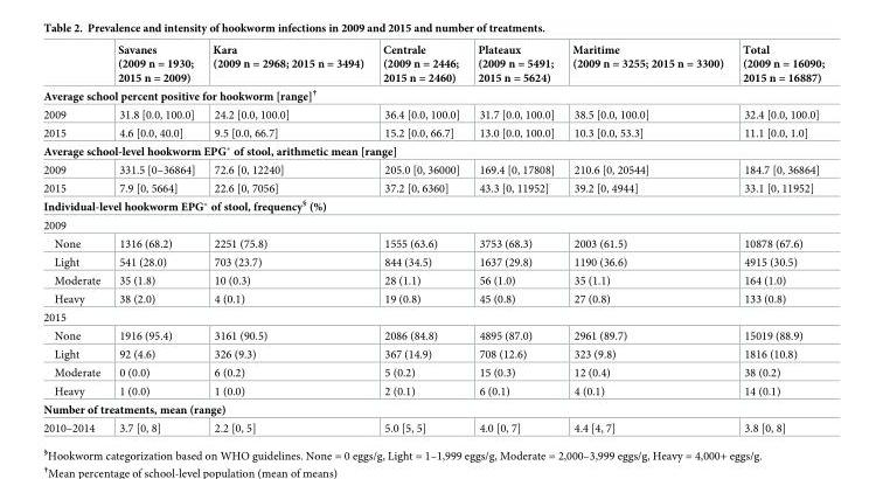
<table><thead><tr><td></td><td>Savanes (2009 n = 1930; 2015 n = 2009)</td><td>Kara (2009 n = 2968; 2015 n = 3494)</td><td>Centrale (2009 n = 2446; 2015 n = 2460)</td><td>Plateaux (2009 n = 5491; 2015 n = 5624)</td><td>Maritime (2009 n = 3255; 2015 n = 3300)</td><td>Total (2009 n = 16090; 2015 n = 16887)</td></tr></thead><tbody><tr><td colspan="7">Average school percent positive for hookworm [range]<sup>†</sup></td></tr><tr><td>2009</td><td>31.8 [0.0, 100.0]</td><td>24.2 [0.0, 100.0]</td><td>36.4 [0.0, 100.0]</td><td>31.7 [0.0, 100.0]</td><td>38.5 [0.0, 100.0]</td><td>32.4 [0.0, 100.0]</td></tr><tr><td>2015</td><td>4.6 [0.0, 40.0]</td><td>9.5 [0.0, 66.7]</td><td>15.2 [0.0, 66.7]</td><td>13.0 [0.0, 100.0]</td><td>10.3 [0.0, 53.3]</td><td>11.1 [0.0, 1.0]</td></tr><tr><td colspan="7">Average school-level hookworm EPG* of stool, arithmetic mean [range]</td></tr><tr><td>2009</td><td>331.5 [0–36864]</td><td>72.6 [0, 12240]</td><td>205.0 [0, 36000]</td><td>169.4 [0, 17808]</td><td>210.6 [0, 20544]</td><td>184.7 [0, 36864]</td></tr><tr><td>2015</td><td>7.9 [0, 5664]</td><td>22.6 [0, 7056]</td><td>37.2 [0, 6360]</td><td>43.3 [0, 11952]</td><td>39.2 [0, 4944]</td><td>33.1 [0, 11952]</td></tr><tr><td colspan="7">Individual-level hookworm EPG* of stool, frequency<sup>§</sup> (%)</td></tr><tr><td colspan="7">2009</td></tr><tr><td>None</td><td>1316 (68.2)</td><td>2251 (75.8)</td><td>1555 (63.6)</td><td>3753 (68.3)</td><td>2003 (61.5)</td><td>10878 (67.6)</td></tr><tr><td>Light</td><td>541 (28.0)</td><td>703 (23.7)</td><td>844 (34.5)</td><td>1637 (29.8)</td><td>1190 (36.6)</td><td>4915 (30.5)</td></tr><tr><td>Moderate</td><td>35 (1.8)</td><td>10 (0.3)</td><td>28 (1.1)</td><td>56 (1.0)</td><td>35 (1.1)</td><td>164 (1.0)</td></tr><tr><td>Heavy</td><td>38 (2.0)</td><td>4 (0.1)</td><td>19 (0.8)</td><td>45 (0.8)</td><td>27 (0.8)</td><td>133 (0.8)</td></tr><tr><td colspan="7">2015</td></tr><tr><td>None</td><td>1916 (95.4)</td><td>3161 (90.5)</td><td>2086 (84.8)</td><td>4895 (87.0)</td><td>2961 (89.7)</td><td>15019 (88.9)</td></tr><tr><td>Light</td><td>92 (4.6)</td><td>326 (9.3)</td><td>367 (14.9)</td><td>708 (12.6)</td><td>323 (9.8)</td><td>1816 (10.8)</td></tr><tr><td>Moderate</td><td>0 (0.0)</td><td>6 (0.2)</td><td>5 (0.2)</td><td>15 (0.3)</td><td>12 (0.4)</td><td>38 (0.2)</td></tr><tr><td>Heavy</td><td>1 (0.0)</td><td>1 (0.0)</td><td>2 (0.1)</td><td>6 (0.1)</td><td>4 (0.1)</td><td>14 (0.1)</td></tr><tr><td colspan="7">Number of treatments, mean (range)</td></tr><tr><td>2010–2014</td><td>3.7 [0, 8]</td><td>2.2 [0, 5]</td><td>5.0 [5, 5]</td><td>4.0 [0, 7]</td><td>4.4 [4, 7]</td><td>3.8 [0, 8]</td></tr></tbody></table>